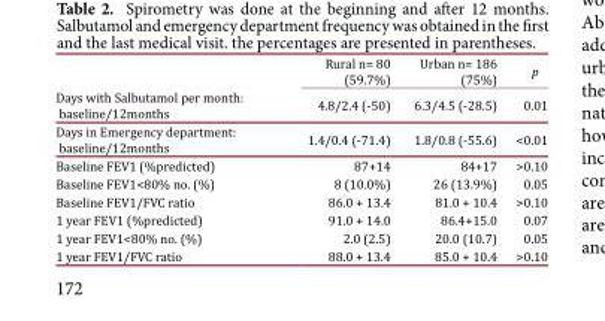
<table><thead><tr><td rowspan="3">Days with Salbutamol per month: baseline/12months Days in Emergency department: baseline/12months</td><td rowspan="3">Rural n= 80 (59.7%) 4.8/2.4 (-50) 1.4/0.4 (-71.4)</td><td rowspan="3">Urban n= 186 (75%) 6.3/4.5 (-28.5) 1.8/0.8 (-55.6)</td><td rowspan="3">p 0.01 &lt;0.01</td></tr><tr></tr><tr></tr></thead><tbody><tr><td>Baseline FEV1 (%predicted)</td><td>87+14</td><td>84+17</td><td>&gt;0.10</td></tr><tr><td>Baseline FEV1&lt;80% no. (%)</td><td>8 (10.0%)</td><td>26 (13.9%)</td><td>0.05</td></tr><tr><td>Baseline FEV1/FVC ratio</td><td>86.0 + 13.4</td><td>81.0 + 10.4</td><td>&gt;0.10</td></tr><tr><td>1 year FEV1 (%predicted)</td><td>91.0 + 14.0</td><td>86.4+15.0</td><td>0.07</td></tr><tr><td>1 year FEV1&lt;80% no. (%)</td><td>2.0 (2.5)</td><td>20.0 (10.7)</td><td>0.05</td></tr><tr><td>1 year FEV1/FVC ratio</td><td>88.0 + 13.4</td><td>85.0 + 10.4</td><td>&gt;0.10</td></tr></tbody></table>